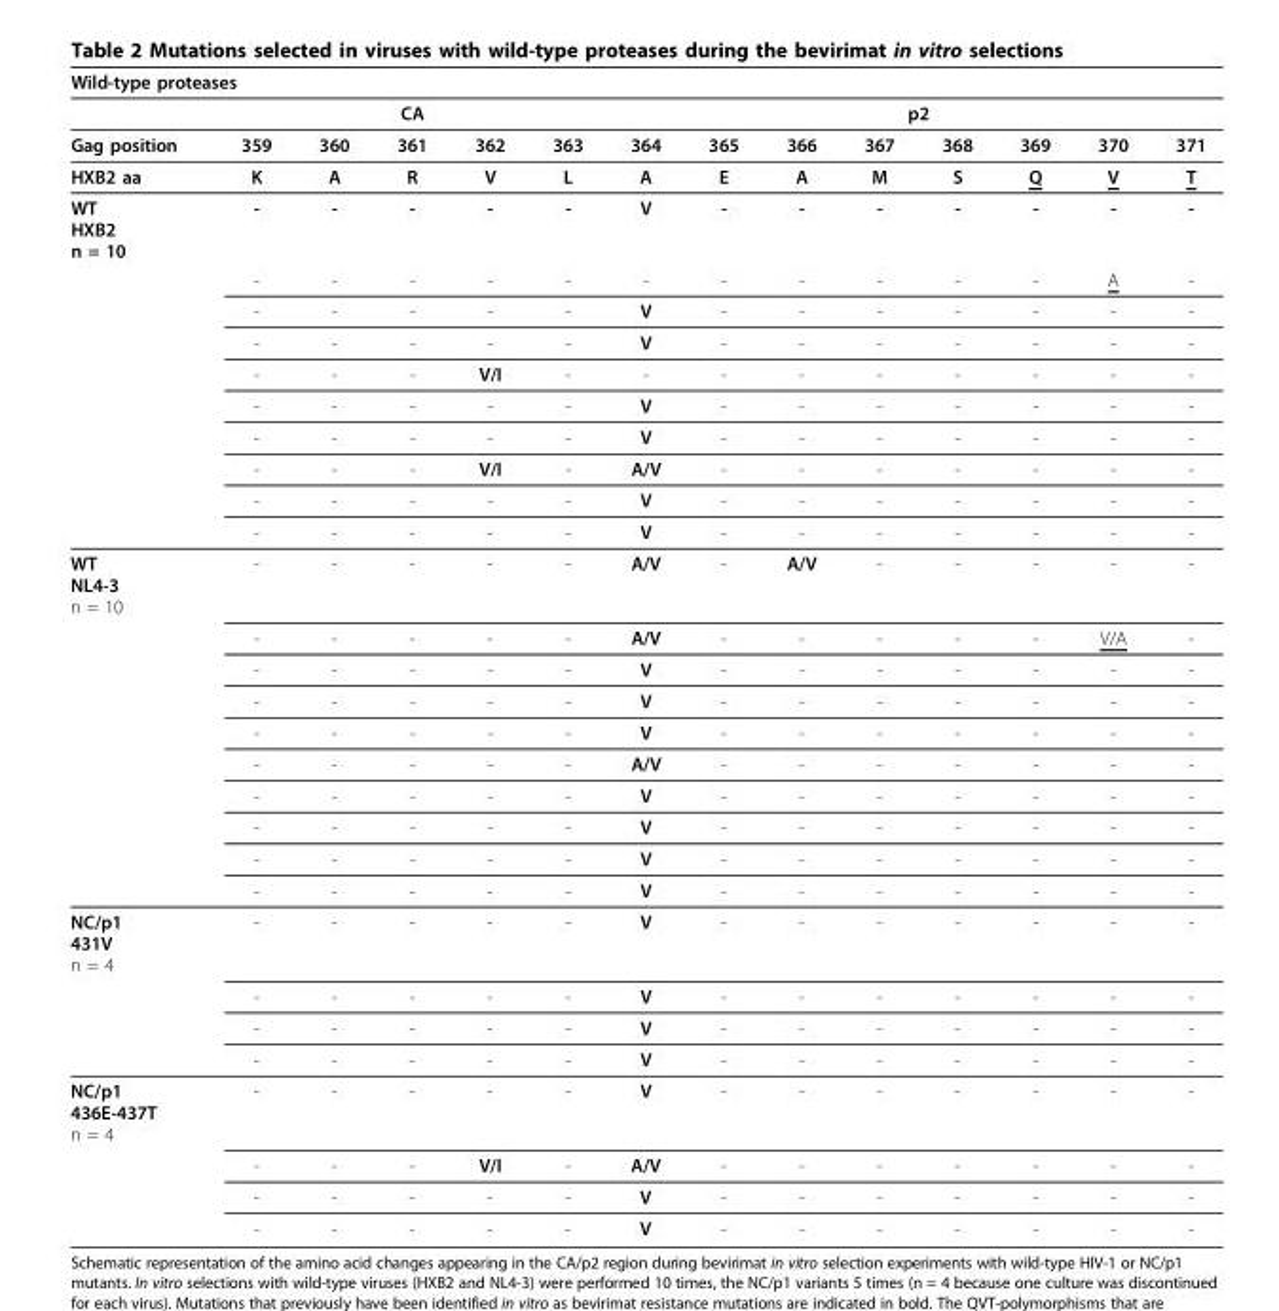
<table><thead><tr><td colspan="14">Wild-type proteases</td></tr><tr><td rowspan="2">Gag position</td><td colspan="5">CA</td><td colspan="8">p2</td></tr><tr><td>359</td><td>360</td><td>361</td><td>362</td><td>363</td><td>364</td><td>365</td><td>366</td><td>367</td><td>368</td><td>369</td><td>370</td><td>371</td></tr></thead><tbody><tr><td>HXB2 aa</td><td>K</td><td>A</td><td>R</td><td>V</td><td>L</td><td>A</td><td>E</td><td>A</td><td>M</td><td>S</td><td>Q</td><td>V</td><td>T</td></tr><tr><td rowspan="10">WT HXB2 n = 10</td><td>-</td><td>-</td><td>-</td><td>-</td><td>-</td><td>V</td><td>-</td><td>-</td><td>-</td><td>-</td><td>-</td><td>-</td><td>-</td></tr><tr><td>-</td><td>-</td><td>-</td><td>-</td><td>-</td><td>-</td><td>-</td><td>-</td><td>-</td><td>-</td><td>-</td><td>A</td><td>-</td></tr><tr><td>-</td><td>-</td><td>-</td><td>-</td><td>-</td><td>V</td><td>-</td><td>-</td><td>-</td><td>-</td><td>-</td><td>-</td><td>-</td></tr><tr><td>-</td><td>-</td><td>-</td><td>-</td><td>-</td><td>V</td><td>-</td><td>-</td><td>-</td><td>-</td><td>-</td><td>-</td><td>-</td></tr><tr><td>-</td><td>-</td><td>-</td><td>V/I</td><td>-</td><td>-</td><td>-</td><td>-</td><td>-</td><td>-</td><td>-</td><td>-</td><td>-</td></tr><tr><td>-</td><td>-</td><td>-</td><td>-</td><td>-</td><td>V</td><td>-</td><td>-</td><td>-</td><td>-</td><td>-</td><td>-</td><td>-</td></tr><tr><td>-</td><td>-</td><td>-</td><td>-</td><td>-</td><td>V</td><td>-</td><td>-</td><td>-</td><td>-</td><td>-</td><td>-</td><td>-</td></tr><tr><td>-</td><td>-</td><td>-</td><td>V/I</td><td>-</td><td>A/V</td><td>-</td><td>-</td><td>-</td><td>-</td><td>-</td><td>-</td><td>-</td></tr><tr><td>-</td><td>-</td><td>-</td><td>-</td><td>-</td><td>V</td><td>-</td><td>-</td><td>-</td><td>-</td><td>-</td><td>-</td><td>-</td></tr><tr><td>-</td><td>-</td><td>-</td><td>-</td><td>-</td><td>V</td><td>-</td><td>-</td><td>-</td><td>-</td><td>-</td><td>-</td><td>-</td></tr><tr><td rowspan="10">WT NL4-3 n = 10</td><td>-</td><td>-</td><td>-</td><td>-</td><td>-</td><td>A/V</td><td>-</td><td>A/V</td><td>-</td><td>-</td><td>-</td><td>-</td><td>-</td></tr><tr><td>-</td><td>-</td><td>-</td><td>-</td><td>-</td><td>A/V</td><td>-</td><td>-</td><td>-</td><td>-</td><td>-</td><td>V/A</td><td>-</td></tr><tr><td>-</td><td>-</td><td>-</td><td>-</td><td>-</td><td>V</td><td>-</td><td>-</td><td>-</td><td>-</td><td>-</td><td>-</td><td>-</td></tr><tr><td>-</td><td>-</td><td>-</td><td>-</td><td>-</td><td>V</td><td>-</td><td>-</td><td>-</td><td>-</td><td>-</td><td>-</td><td>-</td></tr><tr><td>-</td><td>-</td><td>-</td><td>-</td><td>-</td><td>V</td><td>-</td><td>-</td><td>-</td><td>-</td><td>-</td><td>-</td><td>-</td></tr><tr><td>-</td><td>-</td><td>-</td><td>-</td><td>-</td><td>A/V</td><td>-</td><td>-</td><td>-</td><td>-</td><td>-</td><td>-</td><td>-</td></tr><tr><td>-</td><td>-</td><td>-</td><td>-</td><td>-</td><td>V</td><td>-</td><td>-</td><td>-</td><td>-</td><td>-</td><td>-</td><td>-</td></tr><tr><td>-</td><td>-</td><td>-</td><td>-</td><td>-</td><td>V</td><td>-</td><td>-</td><td>-</td><td>-</td><td>-</td><td>-</td><td>-</td></tr><tr><td>-</td><td>-</td><td>-</td><td>-</td><td>-</td><td>V</td><td>-</td><td>-</td><td>-</td><td>-</td><td>-</td><td>-</td><td>-</td></tr><tr><td>-</td><td>-</td><td>-</td><td>-</td><td>-</td><td>V</td><td>-</td><td>-</td><td>-</td><td>-</td><td>-</td><td>-</td><td>-</td></tr><tr><td rowspan="4">NC/p1 431V n = 4</td><td>-</td><td>-</td><td>-</td><td>-</td><td>-</td><td>V</td><td>-</td><td>-</td><td>-</td><td>-</td><td>-</td><td>-</td><td>-</td></tr><tr><td>-</td><td>-</td><td>-</td><td>-</td><td>-</td><td>V</td><td>-</td><td>-</td><td>-</td><td>-</td><td>-</td><td>-</td><td>-</td></tr><tr><td>-</td><td>-</td><td>-</td><td>-</td><td>-</td><td>V</td><td>-</td><td>-</td><td>-</td><td>-</td><td>-</td><td>-</td><td>-</td></tr><tr><td>-</td><td>-</td><td>-</td><td>-</td><td>-</td><td>V</td><td>-</td><td>-</td><td>-</td><td>-</td><td>-</td><td>-</td><td>-</td></tr><tr><td rowspan="4">NC/p1 436E-437T n = 4</td><td>-</td><td>-</td><td>-</td><td>-</td><td>-</td><td>V</td><td>-</td><td>-</td><td>-</td><td>-</td><td>-</td><td>-</td><td>-</td></tr><tr><td>-</td><td>-</td><td>-</td><td>V/I</td><td>-</td><td>A/V</td><td>-</td><td>-</td><td>-</td><td>-</td><td>-</td><td>-</td><td>-</td></tr><tr><td>-</td><td>-</td><td>-</td><td>-</td><td>-</td><td>V</td><td>-</td><td>-</td><td>-</td><td>-</td><td>-</td><td>-</td><td>-</td></tr><tr><td>-</td><td>-</td><td>-</td><td>-</td><td>-</td><td>V</td><td>-</td><td>-</td><td>-</td><td>-</td><td>-</td><td>-</td><td>-</td></tr></tbody></table>